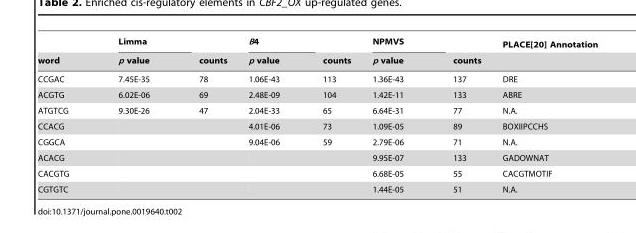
<table><thead><tr><td rowspan="2">word</td><td rowspan="2">Limma p value</td><td rowspan="2">counts</td><td rowspan="2">B4 p value</td><td rowspan="2">counts</td><td rowspan="2">NPMVS p value</td><td rowspan="2">counts</td><td rowspan="2">PLACE[20] Annotation</td></tr><tr></tr></thead><tbody><tr><td>CCGAC</td><td>7.45E-35</td><td>78</td><td>1.06E-43</td><td>113</td><td>1.36E-43</td><td>137</td><td>DRE</td></tr><tr><td>ACGTG</td><td>6.02E-06</td><td>69</td><td>2.48E-09</td><td>104</td><td>1.42E-11</td><td>133</td><td>ABRE</td></tr><tr><td>ATGTCG</td><td>9.30E-26</td><td>47</td><td>2.04E-33</td><td>65</td><td>6.64E-31</td><td>77</td><td>N.A.</td></tr><tr><td>CCACG</td><td></td><td></td><td>4.01E-06</td><td>73</td><td>1.09E-05</td><td>89</td><td>BOXIIPCCHS</td></tr><tr><td>CGGCA</td><td></td><td></td><td>9.04E-06</td><td>59</td><td>2.79E-06</td><td>71</td><td>N.A.</td></tr><tr><td>ACACG</td><td></td><td></td><td></td><td></td><td>9.95E-07</td><td>133</td><td>GADOWNAT</td></tr><tr><td>CACGTG</td><td></td><td></td><td></td><td></td><td>6.68E-05</td><td>55</td><td>CACGTMOTIF</td></tr><tr><td>CGTGTC</td><td></td><td></td><td></td><td></td><td>1.44E-05</td><td>51</td><td>N.A.</td></tr></tbody></table>